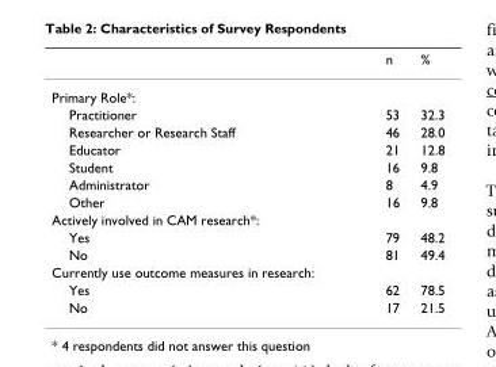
<table><thead><tr><td></td><td>n</td><td>%</td></tr></thead><tbody><tr><td colspan="3">Primary Role*:</td></tr><tr><td>Practitioner</td><td>53</td><td>32.3</td></tr><tr><td>Researcher or Research Staff</td><td>46</td><td>28.0</td></tr><tr><td>Educator</td><td>21</td><td>12.8</td></tr><tr><td>Student</td><td>16</td><td>9.8</td></tr><tr><td>Administrator</td><td>8</td><td>4.9</td></tr><tr><td>Other</td><td>16</td><td>9.8</td></tr><tr><td colspan="3">Actively involved in CAM research*:</td></tr><tr><td>Yes</td><td>79</td><td>48.2</td></tr><tr><td>No</td><td>81</td><td>49.4</td></tr><tr><td colspan="3">Currently use outcome measures in research:</td></tr><tr><td>Yes</td><td>62</td><td>78.5</td></tr><tr><td>No</td><td>17</td><td>21.5</td></tr></tbody></table>